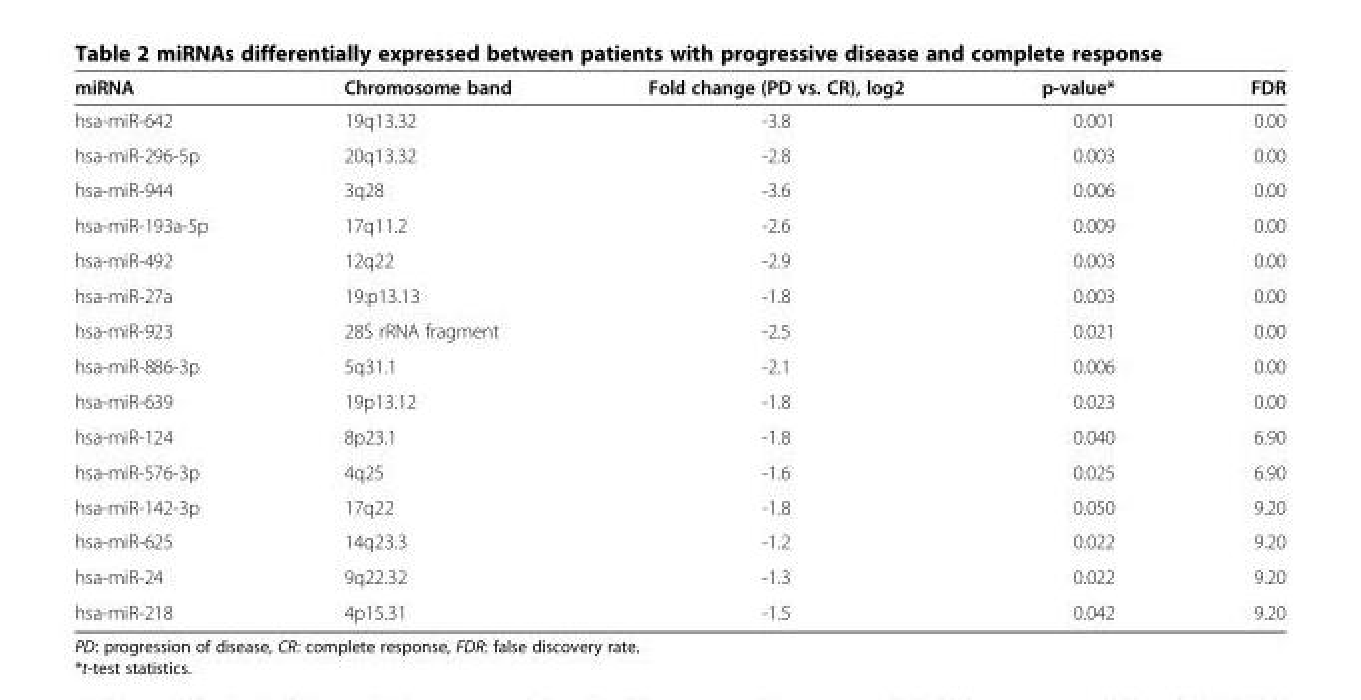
<table><thead><tr><td>miRNA</td><td>Chromosome band</td><td>Fold change (PD vs. CR), log2</td><td>p-value*</td><td>FDR</td></tr></thead><tbody><tr><td>hsa-miR-642</td><td>19q13.32</td><td>-3.8</td><td>0.001</td><td>0.00</td></tr><tr><td>hsa-miR-296-5p</td><td>20q13.32</td><td>-2.8</td><td>0.003</td><td>0.00</td></tr><tr><td>hsa-miR-944</td><td>3q28</td><td>-3.6</td><td>0.006</td><td>0.00</td></tr><tr><td>hsa-miR-193a-5p</td><td>17q11.2</td><td>-2.6</td><td>0.009</td><td>0.00</td></tr><tr><td>hsa-miR-492</td><td>12q22</td><td>-2.9</td><td>0.003</td><td>0.00</td></tr><tr><td>hsa-miR-27a</td><td>19:p13.13</td><td>-1.8</td><td>0.003</td><td>0.00</td></tr><tr><td>hsa-miR-923</td><td>28S rRNA fragment</td><td>-2.5</td><td>0.021</td><td>0.00</td></tr><tr><td>hsa-miR-886-3p</td><td>5q31.1</td><td>-2.1</td><td>0.006</td><td>0.00</td></tr><tr><td>hsa-miR-639</td><td>19p13.12</td><td>-1.8</td><td>0.023</td><td>0.00</td></tr><tr><td>hsa-miR-124</td><td>8p23.1</td><td>-1.8</td><td>0.040</td><td>6.90</td></tr><tr><td>hsa-miR-576-3p</td><td>4q25</td><td>-1.6</td><td>0.025</td><td>6.90</td></tr><tr><td>hsa-miR-142-3p</td><td>17q22</td><td>-1.8</td><td>0.050</td><td>9.20</td></tr><tr><td>hsa-miR-625</td><td>14q23.3</td><td>-1.2</td><td>0.022</td><td>9.20</td></tr><tr><td>hsa-miR-24</td><td>9q22.32</td><td>-1.3</td><td>0.022</td><td>9.20</td></tr><tr><td>hsa-miR-218</td><td>4p15.31</td><td>-1.5</td><td>0.042</td><td>9.20</td></tr></tbody></table>